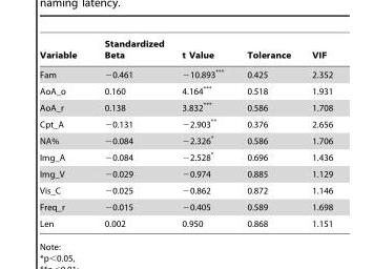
<table><thead><tr><td>Variable</td><td>Standardized Beta</td><td>t Value</td><td>Tolerance</td><td>VIF</td></tr></thead><tbody><tr><td>Fam</td><td>−0.461</td><td>−10.893***</td><td>0.425</td><td>2.352</td></tr><tr><td>AoA_o</td><td>0.160</td><td>4.164***</td><td>0.518</td><td>1.931</td></tr><tr><td>AoA_r</td><td>0.138</td><td>3.832***</td><td>0.586</td><td>1.708</td></tr><tr><td>Cpt_A</td><td>−0.131</td><td>−2.903**</td><td>0.376</td><td>2.656</td></tr><tr><td>NA%</td><td>−0.084</td><td>−2.326*</td><td>0.586</td><td>1.706</td></tr><tr><td>Img_A</td><td>−0.084</td><td>−2.528*</td><td>0.696</td><td>1.436</td></tr><tr><td>Img_V</td><td>−0.029</td><td>−0.974</td><td>0.885</td><td>1.129</td></tr><tr><td>Vis_C</td><td>−0.025</td><td>−0.862</td><td>0.872</td><td>1.146</td></tr><tr><td>Freq_r</td><td>−0.015</td><td>−0.405</td><td>0.589</td><td>1.698</td></tr><tr><td>Len</td><td>0.002</td><td>0.950</td><td>0.868</td><td>1.151</td></tr></tbody></table>